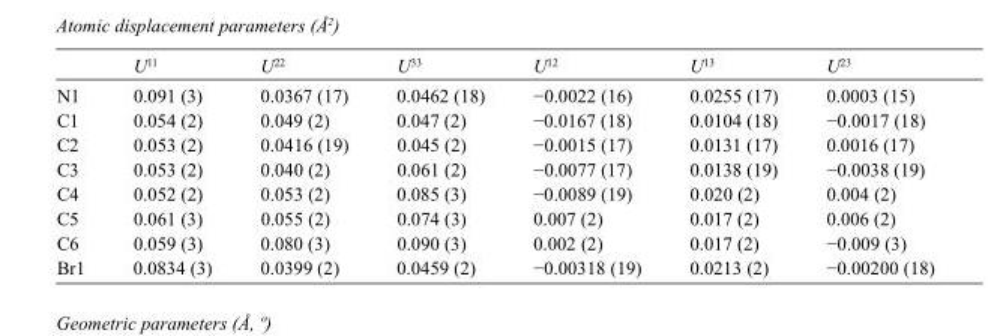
<table><thead><tr><td></td><td>U<sup>11</sup></td><td>U<sup>22</sup></td><td>U<sup>33</sup></td><td>U<sup>12</sup></td><td>U<sup>13</sup></td><td>U<sup>23</sup></td></tr></thead><tbody><tr><td>N1</td><td>0.091 (3)</td><td>0.0367 (17)</td><td>0.0462 (18)</td><td>−0.0022 (16)</td><td>0.0255 (17)</td><td>0.0003 (15)</td></tr><tr><td>C1</td><td>0.054 (2)</td><td>0.049 (2)</td><td>0.047 (2)</td><td>−0.0167 (18)</td><td>0.0104 (18)</td><td>−0.0017 (18)</td></tr><tr><td>C2</td><td>0.053 (2)</td><td>0.0416 (19)</td><td>0.045 (2)</td><td>−0.0015 (17)</td><td>0.0131 (17)</td><td>0.0016 (17)</td></tr><tr><td>C3</td><td>0.053 (2)</td><td>0.040 (2)</td><td>0.061 (2)</td><td>−0.0077 (17)</td><td>0.0138 (19)</td><td>−0.0038 (19)</td></tr><tr><td>C4</td><td>0.052 (2)</td><td>0.053 (2)</td><td>0.085 (3)</td><td>−0.0089 (19)</td><td>0.020 (2)</td><td>0.004 (2)</td></tr><tr><td>C5</td><td>0.061 (3)</td><td>0.055 (2)</td><td>0.074 (3)</td><td>0.007 (2)</td><td>0.017 (2)</td><td>0.006 (2)</td></tr><tr><td>C6</td><td>0.059 (3)</td><td>0.080 (3)</td><td>0.090 (3)</td><td>0.002 (2)</td><td>0.017 (2)</td><td>−0.009 (3)</td></tr><tr><td>Br1</td><td>0.0834 (3)</td><td>0.0399 (2)</td><td>0.0459 (2)</td><td>−0.00318 (19)</td><td>0.0213 (2)</td><td>−0.00200 (18)</td></tr></tbody></table>